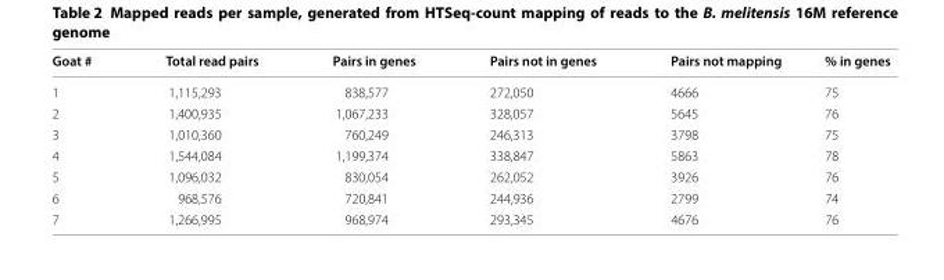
<table><thead><tr><td>Goat #</td><td>Total read pairs</td><td>Pairs in genes</td><td>Pairs not in genes</td><td>Pairs not mapping</td><td>% in genes</td></tr></thead><tbody><tr><td>1</td><td>1,115,293</td><td>838,577</td><td>272,050</td><td>4666</td><td>75</td></tr><tr><td>2</td><td>1,400,935</td><td>1,067,233</td><td>328,057</td><td>5645</td><td>76</td></tr><tr><td>3</td><td>1,010,360</td><td>760,249</td><td>246,313</td><td>3798</td><td>75</td></tr><tr><td>4</td><td>1,544,084</td><td>1,199,374</td><td>338,847</td><td>5863</td><td>78</td></tr><tr><td>5</td><td>1,096,032</td><td>830,054</td><td>262,052</td><td>3926</td><td>76</td></tr><tr><td>6</td><td>968,576</td><td>720,841</td><td>244,936</td><td>2799</td><td>74</td></tr><tr><td>7</td><td>1,266,995</td><td>968,974</td><td>293,345</td><td>4676</td><td>76</td></tr></tbody></table>